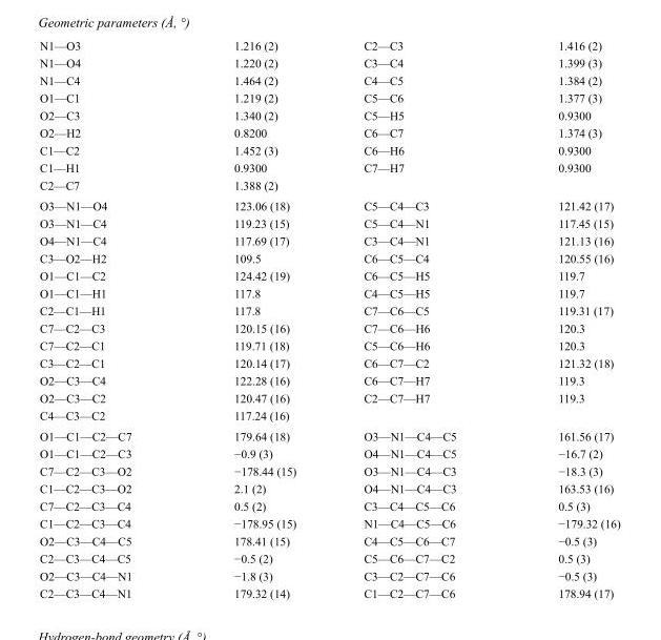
<table><tbody><tr><td>N1—O3</td><td>1.216 (2)</td><td>C2—C3</td><td>1.416 (2)</td></tr><tr><td>N1—O4</td><td>1.220 (2)</td><td>C3—C4</td><td>1.399 (3)</td></tr><tr><td>N1—C4</td><td>1.464 (2)</td><td>C4—C5</td><td>1.384 (2)</td></tr><tr><td>O1—C1</td><td>1.219 (2)</td><td>C5—C6</td><td>1.377 (3)</td></tr><tr><td>O2—C3</td><td>1.340 (2)</td><td>C5—H5</td><td>0.9300</td></tr><tr><td>O2—H2</td><td>0.8200</td><td>C6—C7</td><td>1.374 (3)</td></tr><tr><td>C1—C2</td><td>1.452 (3)</td><td>C6—H6</td><td>0.9300</td></tr><tr><td>C1—H1</td><td>0.9300</td><td>C7—H7</td><td>0.9300</td></tr><tr><td>C2—C7</td><td>1.388 (2)</td><td></td><td></td></tr><tr><td>O3—N1—O4</td><td>123.06 (18)</td><td>C5—C4—C3</td><td>121.42 (17)</td></tr><tr><td>O3—N1—C4</td><td>119.23 (15)</td><td>C5—C4—N1</td><td>117.45 (15)</td></tr><tr><td>O4—N1—C4</td><td>117.69 (17)</td><td>C3—C4—N1</td><td>121.13 (16)</td></tr><tr><td>C3—O2—H2</td><td>109.5</td><td>C6—C5—C4</td><td>120.55 (16)</td></tr><tr><td>O1—C1—C2</td><td>124.42 (19)</td><td>C6—C5—H5</td><td>119.7</td></tr><tr><td>O1—C1—H1</td><td>117.8</td><td>C4—C5—H5</td><td>119.7</td></tr><tr><td>C2—C1—H1</td><td>117.8</td><td>C7—C6—C5</td><td>119.31 (17)</td></tr><tr><td>C7—C2—C3</td><td>120.15 (16)</td><td>C7—C6—H6</td><td>120.3</td></tr><tr><td>C7—C2—C1</td><td>119.71 (18)</td><td>C5—C6—H6</td><td>120.3</td></tr><tr><td>C3—C2—C1</td><td>120.14 (17)</td><td>C6—C7—C2</td><td>121.32 (18)</td></tr><tr><td>O2—C3—C4</td><td>122.28 (16)</td><td>C6—C7—H7</td><td>119.3</td></tr><tr><td>O2—C3—C2</td><td>120.47 (16)</td><td>C2—C7—H7</td><td>119.3</td></tr><tr><td>C4—C3—C2</td><td>117.24 (16)</td><td></td><td></td></tr><tr><td>O1—C1—C2—C7</td><td>179.64 (18)</td><td>O3—N1—C4—C5</td><td>161.56 (17)</td></tr><tr><td>O1—C1—C2—C3</td><td>−0.9 (3)</td><td>O4—N1—C4—C5</td><td>−16.7 (2)</td></tr><tr><td>C7—C2—C3—O2</td><td>−178.44 (15)</td><td>O3—N1—C4—C3</td><td>−18.3 (3)</td></tr><tr><td>C1—C2—C3—O2</td><td>2.1 (2)</td><td>O4—N1—C4—C3</td><td>163.53 (16)</td></tr><tr><td>C7—C2—C3—C4</td><td>0.5 (2)</td><td>C3—C4—C5—C6</td><td>0.5 (3)</td></tr><tr><td>C1—C2—C3—C4</td><td>−178.95 (15)</td><td>N1—C4—C5—C6</td><td>−179.32 (16)</td></tr><tr><td>O2—C3—C4—C5</td><td>178.41 (15)</td><td>C4—C5—C6—C7</td><td>−0.5 (3)</td></tr><tr><td>C2—C3—C4—C5</td><td>−0.5 (2)</td><td>C5—C6—C7—C2</td><td>0.5 (3)</td></tr><tr><td>O2—C3—C4—N1</td><td>−1.8 (3)</td><td>C3—C2—C7—C6</td><td>−0.5 (3)</td></tr><tr><td>C2—C3—C4—N1</td><td>179.32 (14)</td><td>C1—C2—C7—C6</td><td>178.94 (17)</td></tr></tbody></table>